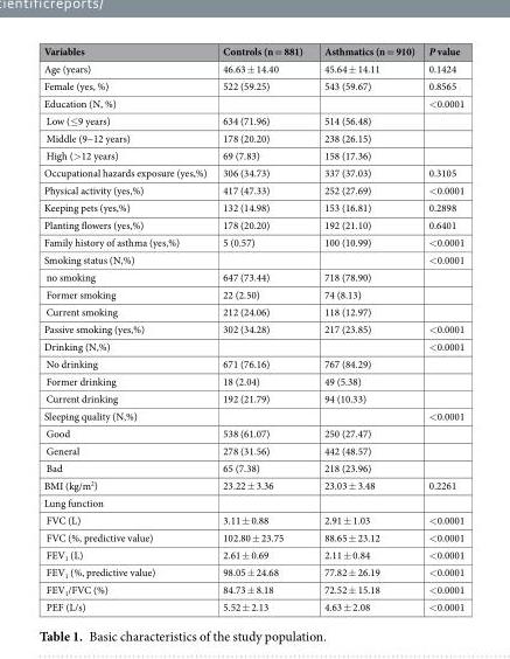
<table><thead><tr><td>Variables</td><td>Controls (n = 881)</td><td>Asthmatics (n = 910)</td><td>P value</td></tr></thead><tbody><tr><td>Age (years)</td><td>46.63 ± 14.40</td><td>45.64 ± 14.11</td><td>0.1424</td></tr><tr><td>Female (yes, %)</td><td>522 (59.25)</td><td>543 (59.67)</td><td>0.8565</td></tr><tr><td>Education (N, %)</td><td></td><td></td><td>&lt;0.0001</td></tr><tr><td>Low (≤9 years)</td><td>634 (71.96)</td><td>514 (56.48)</td><td></td></tr><tr><td>Middle (9~12 years)</td><td>178 (20.20)</td><td>238 (26.15)</td><td></td></tr><tr><td>High (&gt;12 years)</td><td>69 (7.83)</td><td>158 (17.36)</td><td></td></tr><tr><td>Occupational hazards exposure (yes,%)</td><td>306 (34.73)</td><td>337 (37.03)</td><td>0.3105</td></tr><tr><td>Physical activity (yes,%)</td><td>417 (47.33)</td><td>252 (27.69)</td><td>&lt;0.0001</td></tr><tr><td>Keeping pets (yes,%)</td><td>132 (14.98)</td><td>153 (16.81)</td><td>0.2898</td></tr><tr><td>Planting flowers (yes,%)</td><td>178 (20.20)</td><td>192 (21.10)</td><td>0.6401</td></tr><tr><td>Family history of asthma (yes,%)</td><td>5 (0.57)</td><td>100 (10.99)</td><td>&lt;0.0001</td></tr><tr><td>Smoking status (N,%)</td><td></td><td></td><td>&lt;0.0001</td></tr><tr><td>no smoking</td><td>647 (73.44)</td><td>718 (78.90)</td><td></td></tr><tr><td>Former smoking</td><td>22 (2.50)</td><td>74 (8.13)</td><td></td></tr><tr><td>Current smoking</td><td>212 (24.06)</td><td>118 (12.97)</td><td></td></tr><tr><td>Passive smoking (yes,%)</td><td>302 (34.28)</td><td>217 (23.85)</td><td>&lt;0.0001</td></tr><tr><td>Drinking (N,%)</td><td></td><td></td><td>&lt;0.0001</td></tr><tr><td>No drinking</td><td>671 (76.16)</td><td>767 (84.29)</td><td></td></tr><tr><td>Former drinking</td><td>18 (2.04)</td><td>49 (5.38)</td><td></td></tr><tr><td>Current drinking</td><td>192 (21.79)</td><td>94 (10.33)</td><td></td></tr><tr><td>Sleeping quality (N,%)</td><td></td><td></td><td>&lt;0.0001</td></tr><tr><td>Good</td><td>538 (61.07)</td><td>250 (27.47)</td><td></td></tr><tr><td>General</td><td>278 (31.56)</td><td>442 (48.57)</td><td></td></tr><tr><td>Bad</td><td>65 (7.38)</td><td>218 (23.96)</td><td></td></tr><tr><td>BMI (kg/m<sup>2</sup>)</td><td>23.22 ± 3.36</td><td>23.03 ± 3.48</td><td>0.2261</td></tr><tr><td colspan="4">Lung function</td></tr><tr><td>FVC (L)</td><td>3.11 ± 0.88</td><td>2.91 ± 1.03</td><td>&lt;0.0001</td></tr><tr><td>FVC (%, predictive value)</td><td>102.80 ± 23.75</td><td>88.65 ± 23.12</td><td>&lt;0.0001</td></tr><tr><td>FEV<sub>1</sub> (L)</td><td>2.61 ± 0.69</td><td>2.11 ± 0.84</td><td>&lt;0.0001</td></tr><tr><td>FEV<sub>1</sub> (%, predictive value)</td><td>98.05 ± 24.68</td><td>77.82 ± 26.19</td><td>&lt;0.0001</td></tr><tr><td>FEV<sub>1</sub>/FVC (%)</td><td>84.73 ± 8.18</td><td>72.52 ± 15.18</td><td>&lt;0.0001</td></tr><tr><td>PEF (L/s)</td><td>5.52 ± 2.13</td><td>4.63 ± 2.08</td><td>&lt;0.0001</td></tr></tbody></table>